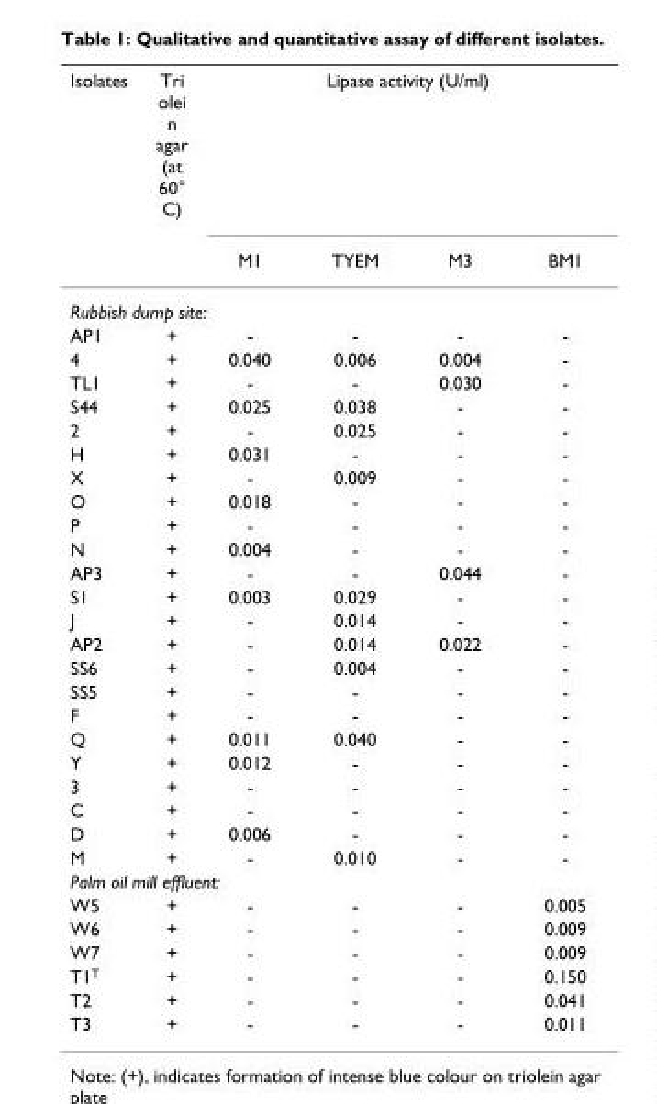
<table><thead><tr><td rowspan="2">Isolates</td><td rowspan="2">Tri olei n agar (at 60° C)</td><td colspan="4">Lipase activity (U/ml)</td></tr><tr><td>M1</td><td>TYEM</td><td>M3</td><td>BM1</td></tr></thead><tbody><tr><td colspan="6">Rubbish dump site:</td></tr><tr><td>AP1</td><td>+</td><td>-</td><td>-</td><td>-</td><td>-</td></tr><tr><td>4</td><td>+</td><td>0.040</td><td>0.006</td><td>0.004</td><td>-</td></tr><tr><td>TL1</td><td>+</td><td>-</td><td>-</td><td>0.030</td><td>-</td></tr><tr><td>S44</td><td>+</td><td>0.025</td><td>0.038</td><td>-</td><td>-</td></tr><tr><td>2</td><td>+</td><td>-</td><td>0.025</td><td>-</td><td>-</td></tr><tr><td>H</td><td>+</td><td>0.031</td><td>-</td><td>-</td><td>-</td></tr><tr><td>X</td><td>+</td><td>-</td><td>0.009</td><td>-</td><td>-</td></tr><tr><td>O</td><td>+</td><td>0.018</td><td>-</td><td>-</td><td>-</td></tr><tr><td>P</td><td>+</td><td>-</td><td>-</td><td>-</td><td>-</td></tr><tr><td>N</td><td>+</td><td>0.004</td><td>-</td><td>-</td><td>-</td></tr><tr><td>AP3</td><td>+</td><td>-</td><td>-</td><td>0.044</td><td>-</td></tr><tr><td>S1</td><td>+</td><td>0.003</td><td>0.029</td><td>-</td><td>-</td></tr><tr><td>J</td><td>+</td><td>-</td><td>0.014</td><td>-</td><td>-</td></tr><tr><td>AP2</td><td>+</td><td>-</td><td>0.014</td><td>0.022</td><td>-</td></tr><tr><td>SS6</td><td>+</td><td>-</td><td>0.004</td><td>-</td><td>-</td></tr><tr><td>SS5</td><td>+</td><td>-</td><td>-</td><td>-</td><td>-</td></tr><tr><td>F</td><td>+</td><td>-</td><td>-</td><td>-</td><td>-</td></tr><tr><td>Q</td><td>+</td><td>0.011</td><td>0.040</td><td>-</td><td>-</td></tr><tr><td>Y</td><td>+</td><td>0.012</td><td>-</td><td>-</td><td>-</td></tr><tr><td>3</td><td>+</td><td>-</td><td>-</td><td>-</td><td>-</td></tr><tr><td>C</td><td>+</td><td>-</td><td>-</td><td>-</td><td>-</td></tr><tr><td>D</td><td>+</td><td>0.006</td><td>-</td><td>-</td><td>-</td></tr><tr><td>M</td><td>+</td><td>-</td><td>0.010</td><td>-</td><td>-</td></tr><tr><td colspan="6">Palm oil mill effluent:</td></tr><tr><td>W5</td><td>+</td><td>-</td><td>-</td><td>-</td><td>0.005</td></tr><tr><td>W6</td><td>+</td><td>-</td><td>-</td><td>-</td><td>0.009</td></tr><tr><td>W7</td><td>+</td><td>-</td><td>-</td><td>-</td><td>0.009</td></tr><tr><td>T1<sup>T</sup></td><td>+</td><td>-</td><td>-</td><td>-</td><td>0.150</td></tr><tr><td>T2</td><td>+</td><td>-</td><td>-</td><td>-</td><td>0.041</td></tr><tr><td>T3</td><td>+</td><td>-</td><td>-</td><td>-</td><td>0.011</td></tr></tbody></table>